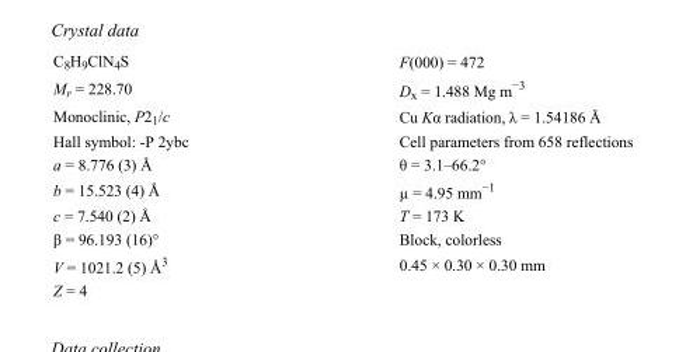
<table><tbody><tr><td>C<sub>8</sub>H<sub>9</sub>ClN<sub>4</sub>S</td><td>F(000) = 472</td></tr><tr><td>M<sub>r</sub> = 228.70</td><td>D<sub>x</sub> = 1.488 Mg m<sup>−3</sup></td></tr><tr><td>Monoclinic, P2<sub>1</sub>/c</td><td>Cu Kα radiation, λ = 1.54186 Å</td></tr><tr><td>Hall symbol: -P 2ybc</td><td>Cell parameters from 658 reflections</td></tr><tr><td>a = 8.776 (3) Å</td><td>θ = 3.1–66.2°</td></tr><tr><td>b = 15.523 (4) Å</td><td>µ = 4.95 mm<sup>−1</sup></td></tr><tr><td>c = 7.540 (2) Å</td><td>T = 173 K</td></tr><tr><td>β = 96.193 (16)°</td><td>Block, colorless</td></tr><tr><td>V = 1021.2 (5) Å<sup>3</sup></td><td>0.45 × 0.30 × 0.30 mm</td></tr><tr><td>Z = 4</td><td></td></tr></tbody></table>